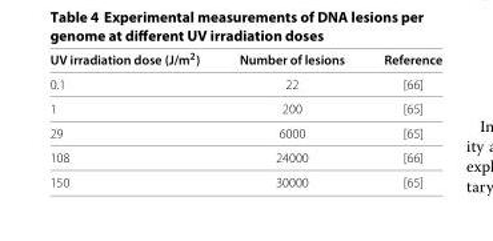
<table><thead><tr><td>UV irradiation dose (J/m<sup>2</sup>)</td><td>Number of lesions</td><td>Reference</td></tr></thead><tbody><tr><td>0.1</td><td>22</td><td>[66]</td></tr><tr><td>1</td><td>200</td><td>[65]</td></tr><tr><td>29</td><td>6000</td><td>[65]</td></tr><tr><td>108</td><td>24000</td><td>[66]</td></tr><tr><td>150</td><td>30000</td><td>[65]</td></tr></tbody></table>